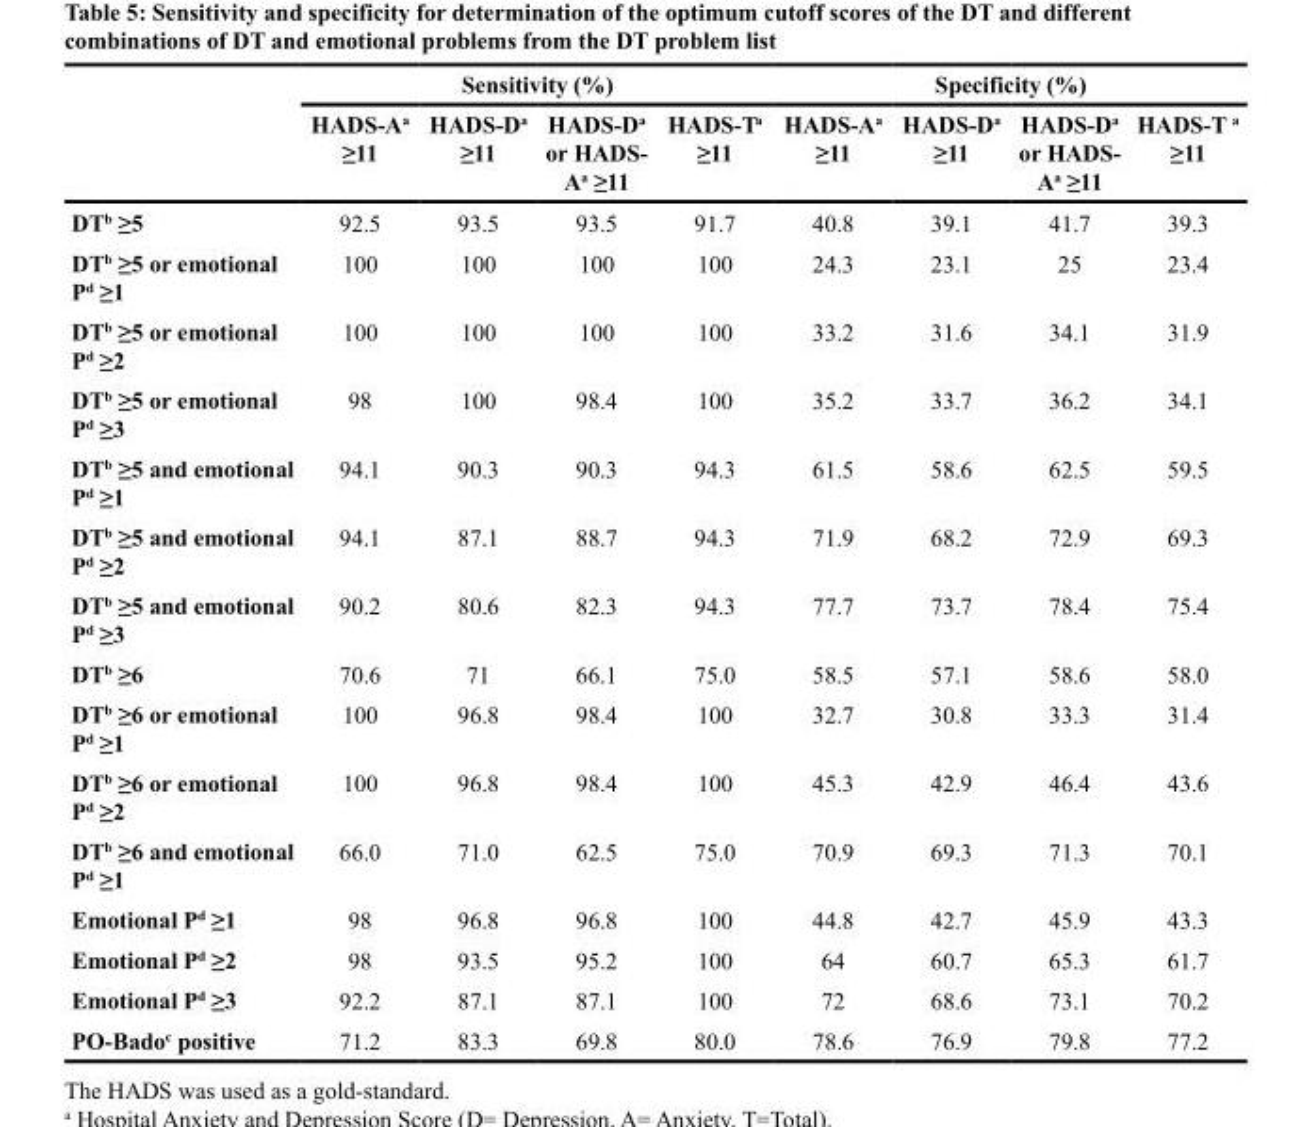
<table><thead><tr><td rowspan="2"></td><td colspan="4">Sensitivity (%)</td><td colspan="4">Specificity (%)</td></tr><tr><td>HADS-A<sup>a</sup> ≥11</td><td>HADS-D<sup>a</sup> ≥11</td><td>HADS-D<sup>a</sup> or HADS- A<sup>a</sup> ≥11</td><td>HADS-T<sup>a</sup> ≥11</td><td>HADS-A<sup>a</sup> ≥11</td><td>HADS-D<sup>a</sup> ≥11</td><td>HADS-D<sup>a</sup> or HADS- A<sup>a</sup> ≥11</td><td>HADS-T <sup>a</sup> ≥11</td></tr></thead><tbody><tr><td>DT<sup>b</sup> ≥5</td><td>92.5</td><td>93.5</td><td>93.5</td><td>91.7</td><td>40.8</td><td>39.1</td><td>41.7</td><td>39.3</td></tr><tr><td>DT<sup>b</sup> ≥5 or emotional P<sup>d</sup> ≥1</td><td>100</td><td>100</td><td>100</td><td>100</td><td>24.3</td><td>23.1</td><td>25</td><td>23.4</td></tr><tr><td>DT<sup>b</sup> ≥5 or emotional P<sup>d</sup> ≥2</td><td>100</td><td>100</td><td>100</td><td>100</td><td>33.2</td><td>31.6</td><td>34.1</td><td>31.9</td></tr><tr><td>DT<sup>b</sup> ≥5 or emotional P<sup>d</sup> ≥3</td><td>98</td><td>100</td><td>98.4</td><td>100</td><td>35.2</td><td>33.7</td><td>36.2</td><td>34.1</td></tr><tr><td>DT<sup>b</sup> ≥5 and emotional P<sup>d</sup> ≥1</td><td>94.1</td><td>90.3</td><td>90.3</td><td>94.3</td><td>61.5</td><td>58.6</td><td>62.5</td><td>59.5</td></tr><tr><td>DT<sup>b</sup> ≥5 and emotional P<sup>d</sup> ≥2</td><td>94.1</td><td>87.1</td><td>88.7</td><td>94.3</td><td>71.9</td><td>68.2</td><td>72.9</td><td>69.3</td></tr><tr><td>DT<sup>b</sup> ≥5 and emotional P<sup>d</sup> ≥3</td><td>90.2</td><td>80.6</td><td>82.3</td><td>94.3</td><td>77.7</td><td>73.7</td><td>78.4</td><td>75.4</td></tr><tr><td>DT<sup>b</sup> ≥6</td><td>70.6</td><td>71</td><td>66.1</td><td>75.0</td><td>58.5</td><td>57.1</td><td>58.6</td><td>58.0</td></tr><tr><td>DT<sup>b</sup> ≥6 or emotional P<sup>d</sup> ≥1</td><td>100</td><td>96.8</td><td>98.4</td><td>100</td><td>32.7</td><td>30.8</td><td>33.3</td><td>31.4</td></tr><tr><td>DT<sup>b</sup> ≥6 or emotional P<sup>d</sup> ≥2</td><td>100</td><td>96.8</td><td>98.4</td><td>100</td><td>45.3</td><td>42.9</td><td>46.4</td><td>43.6</td></tr><tr><td>DT<sup>b</sup> ≥6 and emotional P<sup>d</sup> ≥1</td><td>66.0</td><td>71.0</td><td>62.5</td><td>75.0</td><td>70.9</td><td>69.3</td><td>71.3</td><td>70.1</td></tr><tr><td>Emotional P<sup>d</sup> ≥1</td><td>98</td><td>96.8</td><td>96.8</td><td>100</td><td>44.8</td><td>42.7</td><td>45.9</td><td>43.3</td></tr><tr><td>Emotional P<sup>d</sup> ≥2</td><td>98</td><td>93.5</td><td>95.2</td><td>100</td><td>64</td><td>60.7</td><td>65.3</td><td>61.7</td></tr><tr><td>Emotional P<sup>d</sup> ≥3</td><td>92.2</td><td>87.1</td><td>87.1</td><td>100</td><td>72</td><td>68.6</td><td>73.1</td><td>70.2</td></tr><tr><td>PO-Bado<sup>c</sup> positive</td><td>71.2</td><td>83.3</td><td>69.8</td><td>80.0</td><td>78.6</td><td>76.9</td><td>79.8</td><td>77.2</td></tr></tbody></table>